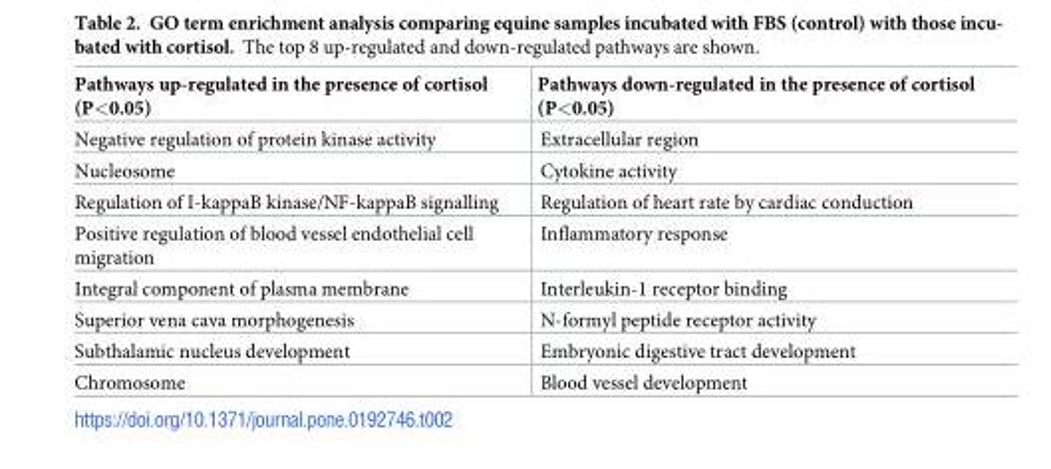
<table><thead><tr><td>Pathways up-regulated in the presence of cortisol (P&lt;0.05)</td><td>Pathways down-regulated in the presence of cortisol (P&lt;0.05)</td></tr></thead><tbody><tr><td>Negative regulation of protein kinase activity</td><td>Extracellular region</td></tr><tr><td>Nucleosome</td><td>Cytokine activity</td></tr><tr><td>Regulation of I-kappaB kinase/NF-kappaB signalling</td><td>Regulation of heart rate by cardiac conduction</td></tr><tr><td>Positive regulation of blood vessel endothelial cell migration</td><td>Inflammatory response</td></tr><tr><td>Integral component of plasma membrane</td><td>Interleukin-1 receptor binding</td></tr><tr><td>Superior vena cava morphogenesis</td><td>N-formyl peptide receptor activity</td></tr><tr><td>Subthalamic nucleus development</td><td>Embryonic digestive tract development</td></tr><tr><td>Chromosome</td><td>Blood vessel development</td></tr></tbody></table>